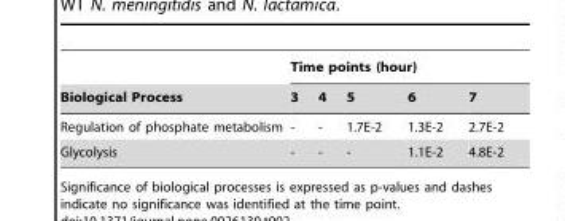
<table><thead><tr><td rowspan="2">Biological Process</td><td colspan="5">Time points (hour)</td></tr><tr><td>3</td><td>4</td><td>5</td><td>6</td><td>7</td></tr></thead><tbody><tr><td>Regulation of phosphate metabolism</td><td>-</td><td>-</td><td>1.7E-2</td><td>1.3E-2</td><td>2.7E-2</td></tr><tr><td>Glycolysis</td><td>-</td><td>-</td><td>-</td><td>1.1E-2</td><td>4.8E-2</td></tr></tbody></table>